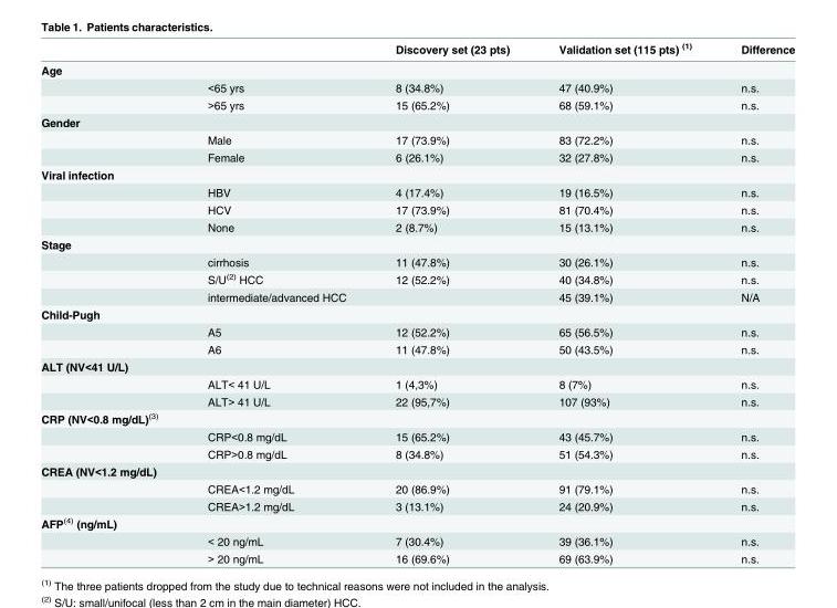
<table><thead><tr><td></td><td></td><td>Discovery set (23 pts)</td><td>Validation set (115 pts) <sup>(1)</sup></td><td>Difference</td></tr></thead><tbody><tr><td colspan="5">Age</td></tr><tr><td></td><td>&lt;65 yrs</td><td>8 (34.8%)</td><td>47 (40.9%)</td><td>n.s.</td></tr><tr><td></td><td>&gt;65 yrs</td><td>15 (65.2%)</td><td>68 (59.1%)</td><td>n.s.</td></tr><tr><td colspan="5">Gender</td></tr><tr><td></td><td>Male</td><td>17 (73.9%)</td><td>83 (72.2%)</td><td>n.s.</td></tr><tr><td></td><td>Female</td><td>6 (26.1%)</td><td>32 (27.8%)</td><td>n.s.</td></tr><tr><td colspan="5">Viral infection</td></tr><tr><td></td><td>HBV</td><td>4 (17.4%)</td><td>19 (16.5%)</td><td>n.s.</td></tr><tr><td></td><td>HCV</td><td>17 (73.9%)</td><td>81 (70.4%)</td><td>n.s.</td></tr><tr><td></td><td>None</td><td>2 (8.7%)</td><td>15 (13.1%)</td><td>n.s.</td></tr><tr><td colspan="5">Stage</td></tr><tr><td></td><td>cirrhosis</td><td>11 (47.8%)</td><td>30 (26.1%)</td><td>n.s.</td></tr><tr><td></td><td>S/U<sup>(2)</sup> HCC</td><td>12 (52.2%)</td><td>40 (34.8%)</td><td>n.s.</td></tr><tr><td></td><td>intermediate/advanced HCC</td><td></td><td>45 (39.1%)</td><td>N/A</td></tr><tr><td colspan="5">Child-Pugh</td></tr><tr><td></td><td>A5</td><td>12 (52.2%)</td><td>65 (56.5%)</td><td>n.s.</td></tr><tr><td></td><td>A6</td><td>11 (47.8%)</td><td>50 (43.5%)</td><td>n.s.</td></tr><tr><td colspan="5">ALT (NV&lt;41 U/L)</td></tr><tr><td></td><td>ALT&lt; 41 U/L</td><td>1 (4,3%)</td><td>8 (7%)</td><td>n.s.</td></tr><tr><td></td><td>ALT&gt; 41 U/L</td><td>22 (95,7%)</td><td>107 (93%)</td><td>n.s.</td></tr><tr><td colspan="5">CRP (NV&lt;0.8 mg/dL)<sup>(3)</sup></td></tr><tr><td></td><td>CRP&lt;0.8 mg/dL</td><td>15 (65.2%)</td><td>43 (45.7%)</td><td>n.s.</td></tr><tr><td></td><td>CRP&gt;0.8 mg/dL</td><td>8 (34.8%)</td><td>51 (54.3%)</td><td>n.s.</td></tr><tr><td colspan="5">CREA (NV&lt;1.2 mg/dL)</td></tr><tr><td></td><td>CREA&lt;1.2 mg/dL</td><td>20 (86.9%)</td><td>91 (79.1%)</td><td>n.s.</td></tr><tr><td></td><td>CREA&gt;1.2 mg/dL</td><td>3 (13.1%)</td><td>24 (20.9%)</td><td>n.s.</td></tr><tr><td colspan="5">AFP<sup>(4)</sup> (ng/mL)</td></tr><tr><td></td><td>&lt; 20 ng/mL</td><td>7 (30.4%)</td><td>39 (36.1%)</td><td>n.s.</td></tr><tr><td></td><td>&gt; 20 ng/mL</td><td>16 (69.6%)</td><td>69 (63.9%)</td><td>n.s.</td></tr></tbody></table>